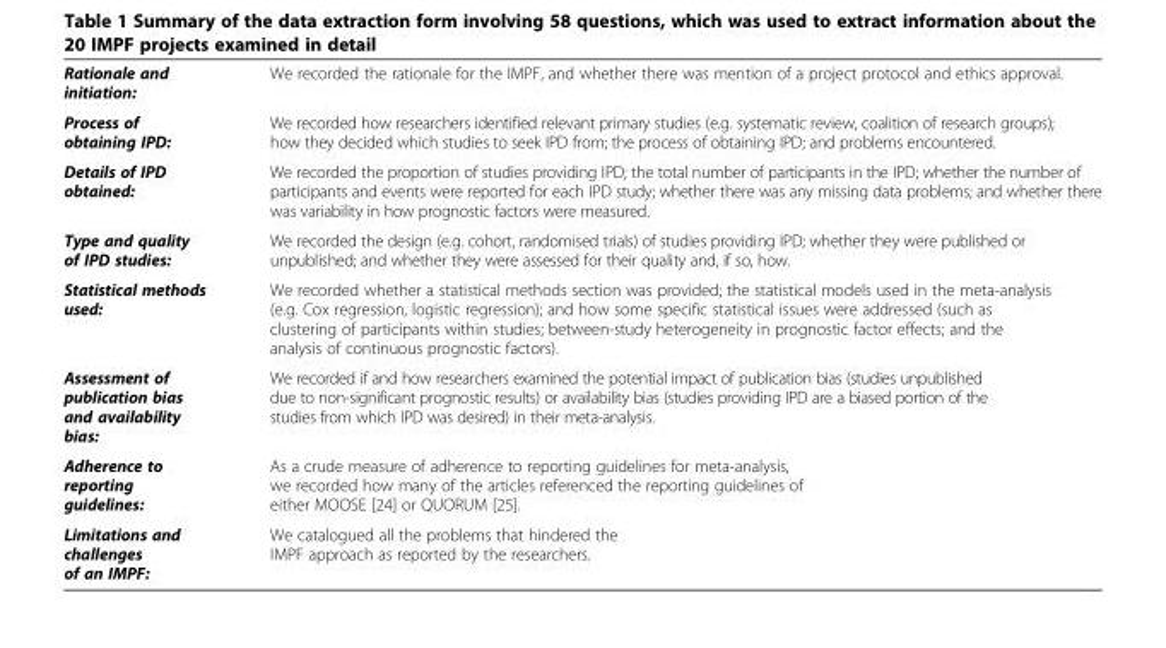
<table><tbody><tr><td>Rationale and initiation:</td><td>We recorded the rationale for the IMPF, and whether there was mention of a project protocol and ethics approval.</td></tr><tr><td>Process of obtaining IPD:</td><td>We recorded how researchers identified relevant primary studies (e.g. systematic review, coalition of research groups); how they decided which studies to seek IPD from; the process of obtaining IPD; and problems encountered.</td></tr><tr><td>Details of IPD obtained:</td><td>We recorded the proportion of studies providing IPD; the total number of participants in the IPD; whether the number of participants and events were reported for each IPD study; whether there was any missing data problems; and whether there was variability in how prognostic factors were measured.</td></tr><tr><td>Type and quality of IPD studies:</td><td>We recorded the design (e.g. cohort, randomised trials) of studies providing IPD; whether they were published or unpublished; and whether they were assessed for their quality and, if so, how.</td></tr><tr><td>Statistical methods used:</td><td>We recorded whether a statistical methods section was provided; the statistical models used in the meta-analysis (e.g. Cox regression, logistic regression); and how some specific statistical issues were addressed (such as clustering of participants within studies; between-study heterogeneity in prognostic factor effects; and the analysis of continuous prognostic factors).</td></tr><tr><td>Assessment of publication bias and availability bias:</td><td>We recorded if and how researchers examined the potential impact of publication bias (studies unpublished due to non-significant prognostic results) or availability bias (studies providing IPD are a biased portion of the studies from which IPD was desired) in their meta-analysis.</td></tr><tr><td>Adherence to reporting guidelines:</td><td>As a crude measure of adherence to reporting guidelines for meta-analysis, we recorded how many of the articles referenced the reporting guidelines of either MOOSE [24] or QUORUM [25].</td></tr><tr><td>Limitations and challenges of an IMPF:</td><td>We catalogued all the problems that hindered the IMPF approach as reported by the researchers.</td></tr></tbody></table>